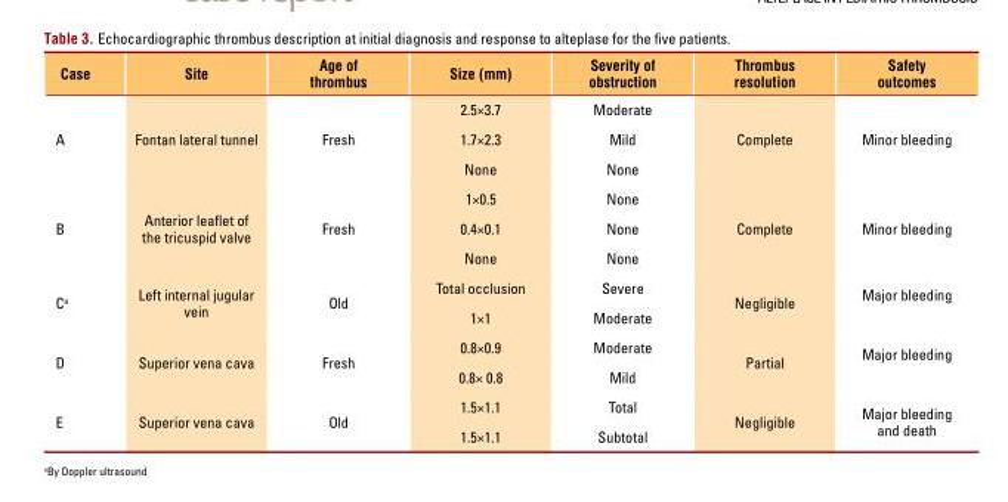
<table><thead><tr><td>Case</td><td>Site</td><td>Age of thrombus</td><td>Size (mm)</td><td>Severity of obstruction</td><td>Thrombus resolution</td><td>Safety outcomes</td></tr></thead><tbody><tr><td rowspan="3">A</td><td rowspan="3">Fontan lateral tunnel</td><td rowspan="3">Fresh</td><td>2.5×3.7</td><td>Moderate</td><td rowspan="3">Complete</td><td rowspan="3">Minor bleeding</td></tr><tr><td>1.7×2.3</td><td>Mild</td></tr><tr><td>None</td><td>None</td></tr><tr><td rowspan="3">B</td><td rowspan="3">Anterior leaflet of the tricuspid valve</td><td rowspan="3">Fresh</td><td>1×0.5</td><td>None</td><td rowspan="3">Complete</td><td rowspan="3">Minor bleeding</td></tr><tr><td>0.4×0.1</td><td>None</td></tr><tr><td>None</td><td>None</td></tr><tr><td rowspan="2">C<sup>a</sup></td><td rowspan="2">Left internal jugular vein</td><td rowspan="2">Old</td><td>Total occlusion</td><td>Severe</td><td rowspan="2">Negligible</td><td rowspan="2">Major bleeding</td></tr><tr><td>1×1</td><td>Moderate</td></tr><tr><td rowspan="2">D</td><td rowspan="2">Superior vena cava</td><td rowspan="2">Fresh</td><td>0.8×0.9</td><td>Moderate</td><td rowspan="2">Partial</td><td rowspan="2">Major bleeding</td></tr><tr><td>0.8× 0.8</td><td>Mild</td></tr><tr><td rowspan="2">E</td><td rowspan="2">Superior vena cava</td><td rowspan="2">Old</td><td>1.5×1.1</td><td>Total</td><td rowspan="2">Negligible</td><td rowspan="2">Major bleeding and death</td></tr><tr><td>1.5×1.1</td><td>Subtotal</td></tr></tbody></table>